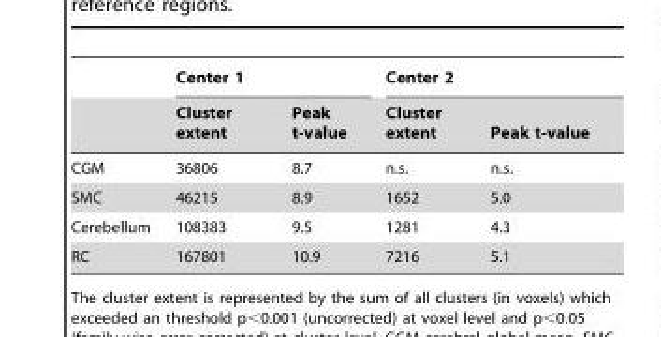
<table><thead><tr><td rowspan="2"></td><td colspan="2">Center 1</td><td colspan="2">Center 2</td></tr><tr><td>Cluster extent</td><td>Peak t-value</td><td>Cluster extent</td><td>Peak t-value</td></tr></thead><tbody><tr><td>CGM</td><td>36806</td><td>8.7</td><td>n.s.</td><td>n.s.</td></tr><tr><td>SMC</td><td>46215</td><td>8.9</td><td>1652</td><td>5.0</td></tr><tr><td>Cerebellum</td><td>108383</td><td>9.5</td><td>1281</td><td>4.3</td></tr><tr><td>RC</td><td>167801</td><td>10.9</td><td>7216</td><td>5.1</td></tr></tbody></table>